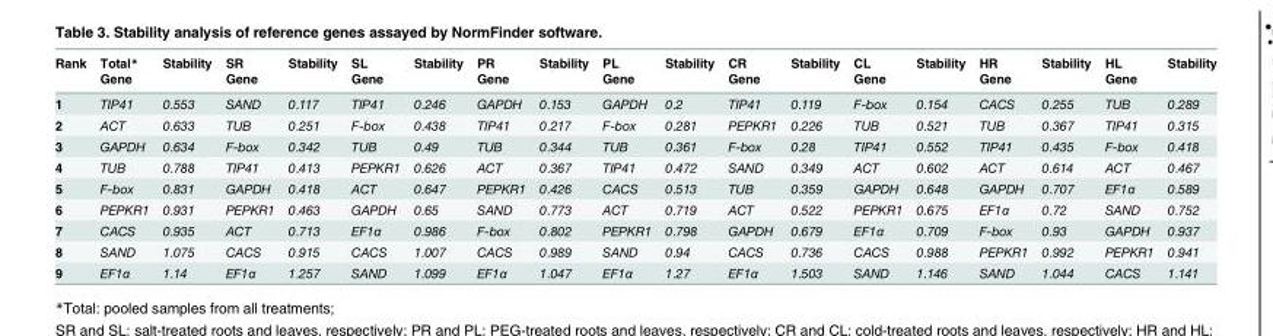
<table><thead><tr><td rowspan="2">Rank</td><td rowspan="2">Total* Gene</td><td rowspan="2">Stability</td><td rowspan="2">SR Gene</td><td rowspan="2">Stability</td><td rowspan="2">SL Gene</td><td rowspan="2">Stability</td><td rowspan="2">PR Gene</td><td rowspan="2">Stability</td><td rowspan="2">PL Gene</td><td rowspan="2">Stability</td><td rowspan="2">CR Gene</td><td rowspan="2">Stability</td><td rowspan="2">CL Gene</td><td rowspan="2">Stability</td><td rowspan="2">HR Gene</td><td rowspan="2">Stability</td><td rowspan="2">HL Gene</td><td rowspan="2">Stability</td></tr><tr></tr></thead><tbody><tr><td>1</td><td>TIP41</td><td>0.553</td><td>SAND</td><td>0.117</td><td>TIP41</td><td>0.246</td><td>GAPDH</td><td>0.153</td><td>GAPDH</td><td>0.2</td><td>TIP41</td><td>0.119</td><td>F-box</td><td>0.154</td><td>CACS</td><td>0.255</td><td>TUB</td><td>0.289</td></tr><tr><td>2</td><td>ACT</td><td>0.633</td><td>TUB</td><td>0.251</td><td>F-box</td><td>0.438</td><td>TIP41</td><td>0.217</td><td>F-box</td><td>0.281</td><td>PEPKR1</td><td>0.226</td><td>TUB</td><td>0.521</td><td>TUB</td><td>0.367</td><td>TIP41</td><td>0.315</td></tr><tr><td>3</td><td>GAPDH</td><td>0.634</td><td>F-box</td><td>0.342</td><td>TUB</td><td>0.49</td><td>TUB</td><td>0.344</td><td>TUB</td><td>0.361</td><td>F-box</td><td>0.28</td><td>TIP41</td><td>0.552</td><td>TIP41</td><td>0.435</td><td>F-box</td><td>0.418</td></tr><tr><td>4</td><td>TUB</td><td>0.788</td><td>TIP41</td><td>0.413</td><td>PEPKR1</td><td>0.626</td><td>ACT</td><td>0.367</td><td>TIP41</td><td>0.472</td><td>SAND</td><td>0.349</td><td>ACT</td><td>0.602</td><td>ACT</td><td>0.614</td><td>ACT</td><td>0.467</td></tr><tr><td>5</td><td>F-box</td><td>0.831</td><td>GAPDH</td><td>0.418</td><td>ACT</td><td>0.647</td><td>PEPKR1</td><td>0.426</td><td>CACS</td><td>0.513</td><td>TUB</td><td>0.359</td><td>GAPDH</td><td>0.648</td><td>GAPDH</td><td>0.707</td><td>EF1α</td><td>0.589</td></tr><tr><td>6</td><td>PEPKR1</td><td>0.931</td><td>PEPKR1</td><td>0.463</td><td>GAPDH</td><td>0.65</td><td>SAND</td><td>0.773</td><td>ACT</td><td>0.719</td><td>ACT</td><td>0.522</td><td>PEPKR1</td><td>0.675</td><td>EF1α</td><td>0.72</td><td>SAND</td><td>0.752</td></tr><tr><td>7</td><td>CACS</td><td>0.935</td><td>ACT</td><td>0.713</td><td>EF1α</td><td>0.986</td><td>F-box</td><td>0.802</td><td>PEPKR1</td><td>0.798</td><td>GAPDH</td><td>0.679</td><td>EF1α</td><td>0.709</td><td>F-box</td><td>0.93</td><td>GAPDH</td><td>0.937</td></tr><tr><td>8</td><td>SAND</td><td>1.075</td><td>CACS</td><td>0.915</td><td>CACS</td><td>1.007</td><td>CACS</td><td>0.989</td><td>SAND</td><td>0.94</td><td>CACS</td><td>0.736</td><td>CACS</td><td>0.988</td><td>PEPKR1</td><td>0.992</td><td>PEPKR1</td><td>0.941</td></tr><tr><td>9</td><td>EF1α</td><td>1.14</td><td>EF1α</td><td>1.257</td><td>SAND</td><td>1.099</td><td>EF1α</td><td>1.047</td><td>EF1α</td><td>1.27</td><td>EF1α</td><td>1.503</td><td>SAND</td><td>1.146</td><td>SAND</td><td>1.044</td><td>CACS</td><td>1.141</td></tr></tbody></table>